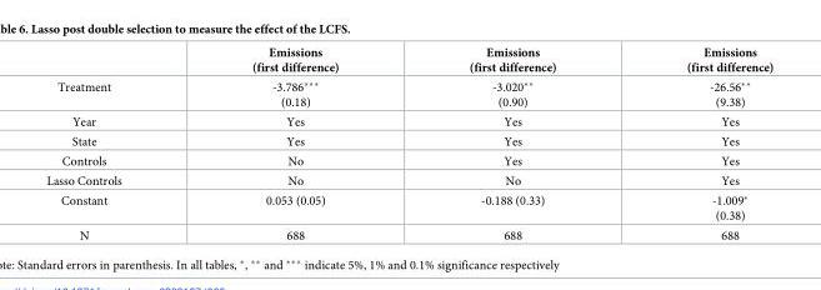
<table><thead><tr><td></td><td>Emissions (first difference)</td><td>Emissions (first difference)</td><td>Emissions (first difference)</td></tr></thead><tbody><tr><td>Treatment</td><td>-3.786*** (0.18)</td><td>-3.020** (0.90)</td><td>-26.56** (9.38)</td></tr><tr><td>Year</td><td>Yes</td><td>Yes</td><td>Yes</td></tr><tr><td>State</td><td>Yes</td><td>Yes</td><td>Yes</td></tr><tr><td>Controls</td><td>No</td><td>Yes</td><td>Yes</td></tr><tr><td>Lasso Controls</td><td>No</td><td>No</td><td>Yes</td></tr><tr><td>Constant</td><td>0.053 (0.05)</td><td>-0.188 (0.33)</td><td>-1.009* (0.38)</td></tr><tr><td>N</td><td>688</td><td>688</td><td>688</td></tr></tbody></table>